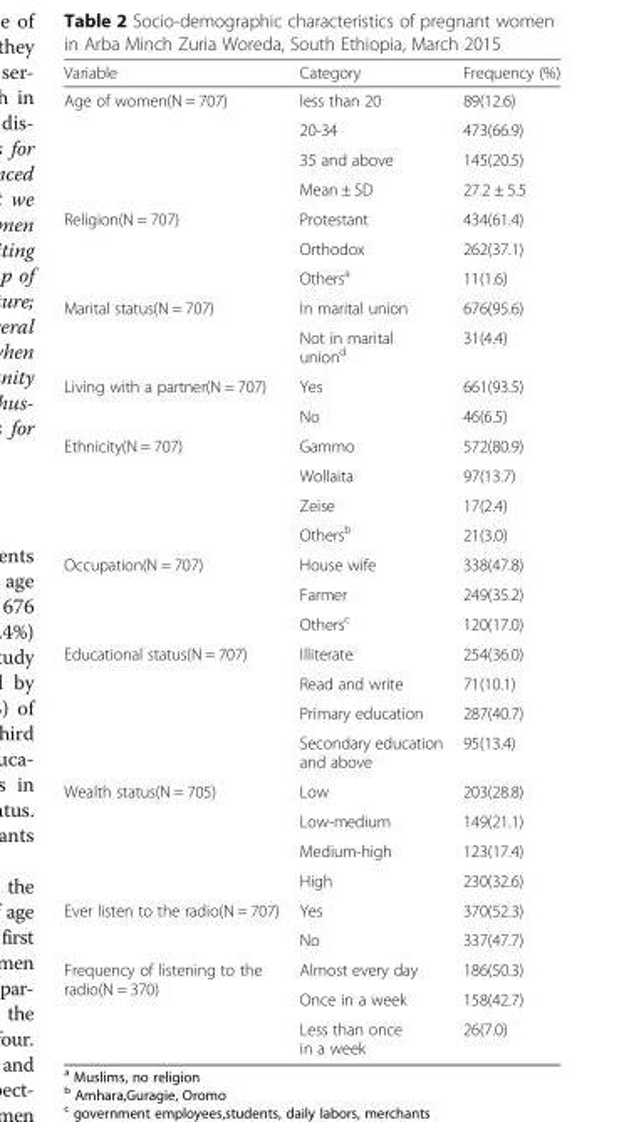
<table><thead><tr><td>Variable</td><td>Category</td><td>Frequency (%)</td></tr></thead><tbody><tr><td rowspan="4">Age of women(N = 707)</td><td>less than 20</td><td>89(12.6)</td></tr><tr><td>20-34</td><td>473(66.9)</td></tr><tr><td>35 and above</td><td>145(20.5)</td></tr><tr><td>Mean ± SD</td><td>27.2 ± 5.5</td></tr><tr><td rowspan="3">Religion(N = 707)</td><td>Protestant</td><td>434(61.4)</td></tr><tr><td>Orthodox</td><td>262(37.1)</td></tr><tr><td>Others<sup>a</sup></td><td>11(1.6)</td></tr><tr><td rowspan="2">Marital status(N = 707)</td><td>In marital union</td><td>676(95.6)</td></tr><tr><td>Not in marital union<sup>d</sup></td><td>31(4.4)</td></tr><tr><td rowspan="2">Living with a partner(N = 707)</td><td>Yes</td><td>661(93.5)</td></tr><tr><td>No</td><td>46(6.5)</td></tr><tr><td rowspan="4">Ethnicity(N = 707)</td><td>Gammo</td><td>572(80.9)</td></tr><tr><td>Wollaita</td><td>97(13.7)</td></tr><tr><td>Zeise</td><td>17(2.4)</td></tr><tr><td>Others<sup>b</sup></td><td>21(3.0)</td></tr><tr><td rowspan="3">Occupation(N = 707)</td><td>House wife</td><td>338(47.8)</td></tr><tr><td>Farmer</td><td>249(35.2)</td></tr><tr><td>Others<sup>c</sup></td><td>120(17.0)</td></tr><tr><td rowspan="4">Educational status(N = 707)</td><td>Illiterate</td><td>254(36.0)</td></tr><tr><td>Read and write</td><td>71(10.1)</td></tr><tr><td>Primary education</td><td>287(40.7)</td></tr><tr><td>Secondary education and above</td><td>95(13.4)</td></tr><tr><td rowspan="4">Wealth status(N = 705)</td><td>Low</td><td>203(28.8)</td></tr><tr><td>Low-medium</td><td>149(21.1)</td></tr><tr><td>Medium-high</td><td>123(17.4)</td></tr><tr><td>High</td><td>230(32.6)</td></tr><tr><td rowspan="2">Ever listen to the radio(N = 707)</td><td>Yes</td><td>370(52.3)</td></tr><tr><td>No</td><td>337(47.7)</td></tr><tr><td rowspan="3">Frequency of listening to the radio(N = 370)</td><td>Almost every day</td><td>186(50.3)</td></tr><tr><td>Once in a week</td><td>158(42.7)</td></tr><tr><td>Less than once in a week</td><td>26(7.0)</td></tr></tbody></table>